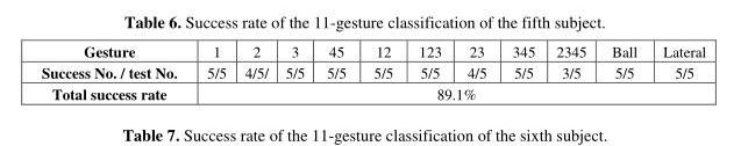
<table><tbody><tr><td>Gesture</td><td>1</td><td>2</td><td>3</td><td>45</td><td>12</td><td>123</td><td>23</td><td>345</td><td>2345</td><td>Ball</td><td>Lateral</td></tr><tr><td>Success No. / test No.</td><td>5/5</td><td>4/5/</td><td>5/5</td><td>5/5</td><td>5/5</td><td>5/5</td><td>4/5</td><td>5/5</td><td>3/5</td><td>5/5</td><td>5/5</td></tr><tr><td>Total success rate</td><td colspan="11">89.1%</td></tr></tbody></table>